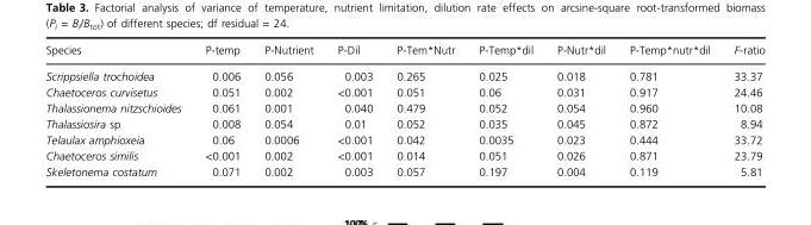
<table><thead><tr><td>Species</td><td>P-temp</td><td>P-Nutrient</td><td>P-Dil</td><td>P-Tem*Nutr</td><td>P-Temp*dil</td><td>P-Nutr*dil</td><td>P-Temp*nutr*dil</td><td>F-ratio</td></tr></thead><tbody><tr><td>Scrippsiella trochoidea</td><td>0.006</td><td>0.056</td><td>0.003</td><td>0.265</td><td>0.025</td><td>0.018</td><td>0.781</td><td>33.37</td></tr><tr><td>Chaetoceros curvisetus</td><td>0.051</td><td>0.002</td><td>&lt;0.001</td><td>0.051</td><td>0.06</td><td>0.031</td><td>0.917</td><td>24.46</td></tr><tr><td>Thalassionema nitzschioides</td><td>0.061</td><td>0.001</td><td>0.040</td><td>0.479</td><td>0.052</td><td>0.054</td><td>0.960</td><td>10.08</td></tr><tr><td>Thalassiosira sp</td><td>0.008</td><td>0.054</td><td>0.01</td><td>0.052</td><td>0.035</td><td>0.045</td><td>0.872</td><td>8.94</td></tr><tr><td>Telaulax amphioxeia</td><td>0.06</td><td>0.0006</td><td>&lt;0.001</td><td>0.042</td><td>0.0035</td><td>0.023</td><td>0.444</td><td>33.72</td></tr><tr><td>Chaetoceros similis</td><td>&lt;0.001</td><td>0.002</td><td>&lt;0.001</td><td>0.014</td><td>0.051</td><td>0.026</td><td>0.871</td><td>23.79</td></tr><tr><td>Skeletonema costatum</td><td>0.071</td><td>0.002</td><td>0.003</td><td>0.057</td><td>0.197</td><td>0.004</td><td>0.119</td><td>5.81</td></tr></tbody></table>